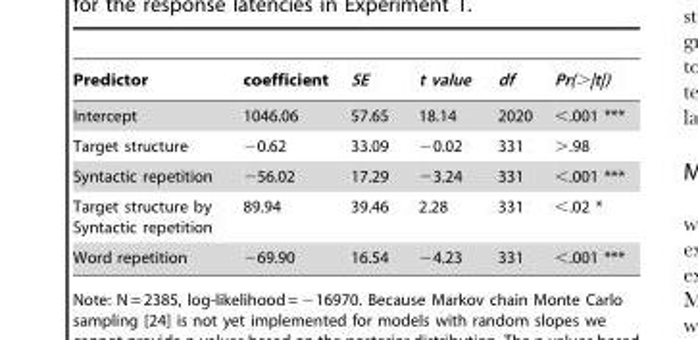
<table><thead><tr><td>Predictor</td><td>coefficient</td><td>SE</td><td>t value</td><td>df</td><td>Pr(&gt;|t|)</td></tr></thead><tbody><tr><td>Intercept</td><td>1046.06</td><td>57.65</td><td>18.14</td><td>2020</td><td>&lt;.001 ***</td></tr><tr><td>Target structure</td><td>−0.62</td><td>33.09</td><td>−0.02</td><td>331</td><td>&gt;.98</td></tr><tr><td>Syntactic repetition</td><td>−56.02</td><td>17.29</td><td>−3.24</td><td>331</td><td>&lt;.001 ***</td></tr><tr><td>Target structure by Syntactic repetition</td><td>89.94</td><td>39.46</td><td>2.28</td><td>331</td><td>&lt;.02 *</td></tr><tr><td>Word repetition</td><td>−69.90</td><td>16.54</td><td>−4.23</td><td>331</td><td>&lt;.001 ***</td></tr></tbody></table>